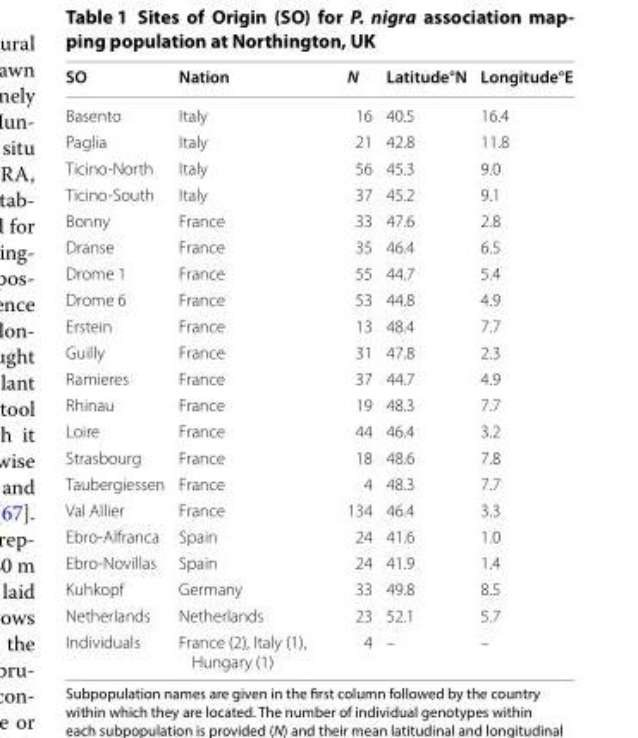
<table><thead><tr><td>SO</td><td>Nation</td><td>N</td><td>Latitude°N</td><td>Longitude°E</td></tr></thead><tbody><tr><td>Basento</td><td>Italy</td><td>16</td><td>40.5</td><td>16.4</td></tr><tr><td>Paglia</td><td>Italy</td><td>21</td><td>42.8</td><td>11.8</td></tr><tr><td>Ticino‑North</td><td>Italy</td><td>56</td><td>45.3</td><td>9.0</td></tr><tr><td>Ticino‑South</td><td>Italy</td><td>37</td><td>45.2</td><td>9.1</td></tr><tr><td>Bonny</td><td>France</td><td>33</td><td>47.6</td><td>2.8</td></tr><tr><td>Dranse</td><td>France</td><td>35</td><td>46.4</td><td>6.5</td></tr><tr><td>Drome 1</td><td>France</td><td>55</td><td>44.7</td><td>5.4</td></tr><tr><td>Drome 6</td><td>France</td><td>53</td><td>44.8</td><td>4.9</td></tr><tr><td>Erstein</td><td>France</td><td>13</td><td>48.4</td><td>7.7</td></tr><tr><td>Guilly</td><td>France</td><td>31</td><td>47.8</td><td>2.3</td></tr><tr><td>Ramieres</td><td>France</td><td>37</td><td>44.7</td><td>4.9</td></tr><tr><td>Rhinau</td><td>France</td><td>19</td><td>48.3</td><td>7.7</td></tr><tr><td>Loire</td><td>France</td><td>44</td><td>46.4</td><td>3.2</td></tr><tr><td>Strasbourg</td><td>France</td><td>18</td><td>48.6</td><td>7.8</td></tr><tr><td>Taubergiessen</td><td>France</td><td>4</td><td>48.3</td><td>7.7</td></tr><tr><td>Val Allier</td><td>France</td><td>134</td><td>46.4</td><td>3.3</td></tr><tr><td>Ebro‑Alfranca</td><td>Spain</td><td>24</td><td>41.6</td><td>1.0</td></tr><tr><td>Ebro‑Novillas</td><td>Spain</td><td>24</td><td>41.9</td><td>1.4</td></tr><tr><td>Kuhkopf</td><td>Germany</td><td>33</td><td>49.8</td><td>8.5</td></tr><tr><td>Netherlands</td><td>Netherlands</td><td>23</td><td>52.1</td><td>5.7</td></tr><tr><td>Individuals</td><td>France (2), Italy (1), Hungary (1)</td><td>4</td><td>–</td><td>–</td></tr></tbody></table>